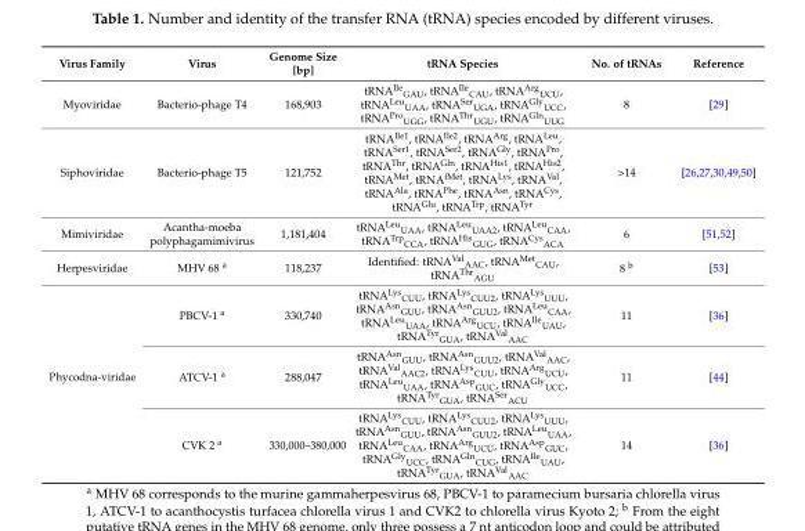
<table><thead><tr><td>Virus Family</td><td>Virus</td><td>Genome Size [bp]</td><td>tRNA Species</td><td>No. of tRNAs</td><td>Reference</td></tr></thead><tbody><tr><td>Myoviridae</td><td>Bacterio-phage T4</td><td>168,903</td><td>tRNA<sup>Ile</sup><sub>GAU</sub>, tRNA<sup>Ile</sup><sub>CAU</sub>, tRNA<sup>Arg</sup><sub>UCU</sub>, tRNA<sup>Leu</sup><sub>UAA</sub>, tRNA<sup>Ser</sup><sub>UGA</sub>, tRNA<sup>Gly</sup><sub>UCC</sub>, tRNA<sup>Pro</sup><sub>UGG</sub>, tRNA<sup>Thr</sup><sub>UGU</sub>, tRNA<sup>Gln</sup><sub>UUG</sub></td><td>8</td><td>[29]</td></tr><tr><td>Siphoviridae</td><td>Bacterio-phage T5</td><td>121,752</td><td>tRNA<sup>Ile1</sup>, tRNA<sup>Ile2</sup>, tRNA<sup>Arg</sup>, tRNA<sup>Leu</sup>, tRNA<sup>Ser1</sup>, tRNA<sup>Ser2</sup>, tRNA<sup>Gly</sup>, tRNA<sup>Pro</sup>, tRNA<sup>Thr</sup>, tRNA<sup>Gln</sup>, tRNA<sup>His1</sup>, tRNA<sup>His2</sup>, tRNA<sup>Met</sup>, tRNA<sup>fMet</sup>, tRNA<sup>Lys</sup>, tRNA<sup>Val</sup>, tRNA<sup>Ala</sup>, tRNA<sup>Phe</sup>, tRNA<sup>Asn</sup>, tRNA<sup>Cys</sup>, tRNA<sup>Glu</sup>, tRNA<sup>Trp</sup>, tRNA<sup>Tyr</sup></td><td>&gt;14</td><td>[26,27,30,49,50]</td></tr><tr><td>Mimiviridae</td><td>Acantha-moeba polyphagamimivirus</td><td>1,181,404</td><td>tRNA<sup>Leu</sup><sub>UAA</sub>, tRNA<sup>Leu</sup><sub>UAA2</sub>, tRNA<sup>Leu</sup><sub>CAA</sub>, tRNA<sup>Trp</sup><sub>CCA</sub>, tRNA<sup>His</sup><sub>GUG</sub>, tRNA<sup>Cys</sup><sub>ACA</sub></td><td>6</td><td>[51,52]</td></tr><tr><td>Herpesviridae</td><td>MHV 68 <sup>a</sup></td><td>118,237</td><td>Identified: tRNA<sup>Val</sup><sub>AAC</sub>, tRNA<sup>Met</sup><sub>CAU</sub>, tRNA<sup>Thr</sup><sub>AGU</sub></td><td>8 <sup>b</sup></td><td>[53]</td></tr><tr><td rowspan="3">Phycodna-viridae</td><td>PBCV-1 <sup>a</sup></td><td>330,740</td><td>tRNA<sup>Lys</sup><sub>CUU</sub>, tRNA<sup>Lys</sup><sub>CUU2</sub>, tRNA<sup>Lys</sup><sub>UUU</sub>, tRNA<sup>Asn</sup><sub>GUU</sub>, tRNA<sup>Asn</sup><sub>GUU2</sub>, tRNA<sup>Leu</sup><sub>CAA</sub>, tRNA<sup>Leu</sup><sub>UAA</sub>, tRNA<sup>Arg</sup><sub>UCU</sub>, tRNA<sup>Ile</sup><sub>UAU</sub>, tRNA<sup>Tyr</sup><sub>GUA</sub>, tRNA<sup>Val</sup><sub>AAC</sub></td><td>11</td><td>[36]</td></tr><tr><td>ATCV-1 <sup>a</sup></td><td>288,047</td><td>tRNA<sup>Asn</sup><sub>GUU</sub>, tRNA<sup>Asn</sup><sub>GUU2</sub>, tRNA<sup>Val</sup><sub>AAC</sub>, tRNA<sup>Val</sup><sub>AAC2</sub>, tRNA<sup>Lys</sup><sub>CUU</sub>, tRNA<sup>Arg</sup><sub>UCU</sub>, tRNA<sup>Leu</sup><sub>UAA</sub>, tRNA<sup>Asp</sup><sub>GUC</sub>, tRNA<sup>Gly</sup><sub>UCC</sub>, tRNA<sup>Tyr</sup><sub>GUA</sub>, tRNA<sup>Ser</sup><sub>ACU</sub></td><td>11</td><td>[44]</td></tr><tr><td>CVK 2 <sup>a</sup></td><td>330,000–380,000</td><td>tRNA<sup>Lys</sup><sub>CUU</sub>, tRNA<sup>Lys</sup><sub>CUU2</sub>, tRNA<sup>Lys</sup><sub>UUU</sub>, tRNA<sup>Asn</sup><sub>GUU</sub>, tRNA<sup>Asn</sup><sub>GUU2</sub>, tRNA<sup>Leu</sup><sub>UAA</sub>, tRNA<sup>Leu</sup><sub>CAA</sub>, tRNA<sup>Arg</sup><sub>UCU</sub>, tRNA<sup>Asp</sup><sub>GUC</sub>, tRNA<sup>Gly</sup><sub>UCC</sub>, tRNA<sup>Gln</sup><sub>CUG</sub>, tRNA<sup>Ile</sup><sub>UAU</sub>, tRNA<sup>Tyr</sup><sub>GUA</sub>, tRNA<sup>Val</sup><sub>AAC</sub></td><td>14</td><td>[36]</td></tr></tbody></table>